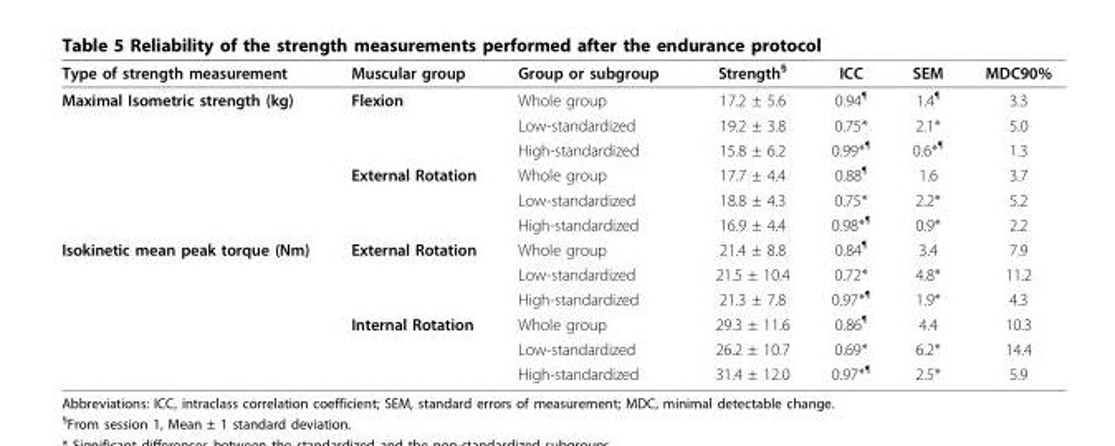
<table><thead><tr><td>Type of strength measurement</td><td>Muscular group</td><td>Group or subgroup</td><td>Strength<sup>§</sup></td><td>ICC</td><td>SEM</td><td>MDC90%</td></tr></thead><tbody><tr><td rowspan="6">Maximal Isometric strength (kg)</td><td>Flexion</td><td>Whole group</td><td>17.2 ± 5.6</td><td>0.94<sup>¶</sup></td><td>1.4<sup>¶</sup></td><td>3.3</td></tr><tr><td></td><td>Low-standardized</td><td>19.2 ± 3.8</td><td>0.75*</td><td>2.1*</td><td>5.0</td></tr><tr><td></td><td>High-standardized</td><td>15.8 ± 6.2</td><td>0.99*<sup>¶</sup></td><td>0.6*<sup>¶</sup></td><td>1.3</td></tr><tr><td>External Rotation</td><td>Whole group</td><td>17.7 ± 4.4</td><td>0.88<sup>¶</sup></td><td>1.6</td><td>3.7</td></tr><tr><td></td><td>Low-standardized</td><td>18.8 ± 4.3</td><td>0.75*</td><td>2.2*</td><td>5.2</td></tr><tr><td></td><td>High-standardized</td><td>16.9 ± 4.4</td><td>0.98*<sup>¶</sup></td><td>0.9*</td><td>2.2</td></tr><tr><td rowspan="6">Isokinetic mean peak torque (Nm)</td><td>External Rotation</td><td>Whole group</td><td>21.4 ± 8.8</td><td>0.84<sup>¶</sup></td><td>3.4</td><td>7.9</td></tr><tr><td></td><td>Low-standardized</td><td>21.5 ± 10.4</td><td>0.72*</td><td>4.8*</td><td>11.2</td></tr><tr><td></td><td>High-standardized</td><td>21.3 ± 7.8</td><td>0.97*<sup>¶</sup></td><td>1.9*</td><td>4.3</td></tr><tr><td>Internal Rotation</td><td>Whole group</td><td>29.3 ± 11.6</td><td>0.86<sup>¶</sup></td><td>4.4</td><td>10.3</td></tr><tr><td></td><td>Low-standardized</td><td>26.2 ± 10.7</td><td>0.69*</td><td>6.2*</td><td>14.4</td></tr><tr><td></td><td>High-standardized</td><td>31.4 ± 12.0</td><td>0.97*<sup>¶</sup></td><td>2.5*</td><td>5.9</td></tr></tbody></table>